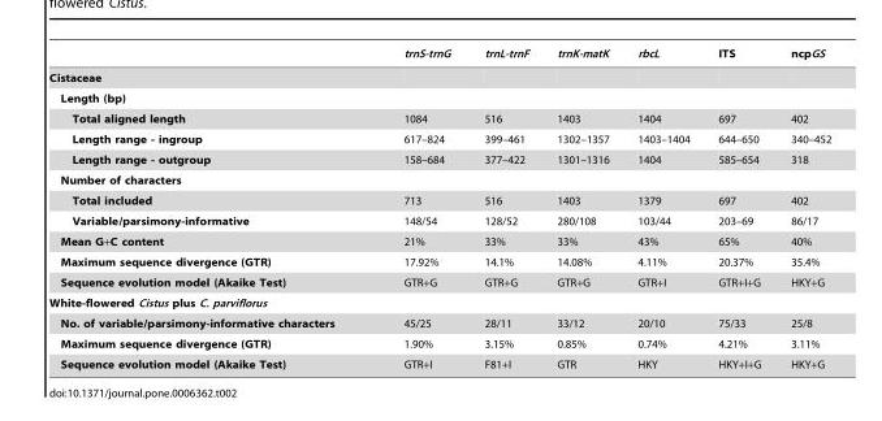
<table><thead><tr><td></td><td>trnS-trnG</td><td>trnL-trnF</td><td>trnK-matK</td><td>rbcL</td><td>ITS</td><td>ncpGS</td></tr></thead><tbody><tr><td colspan="7">Cistaceae</td></tr><tr><td colspan="7">Length (bp)</td></tr><tr><td>Total aligned length</td><td>1084</td><td>516</td><td>1403</td><td>1404</td><td>697</td><td>402</td></tr><tr><td>Length range - ingroup</td><td>617–824</td><td>399–461</td><td>1302–1357</td><td>1403–1404</td><td>644–650</td><td>340–452</td></tr><tr><td>Length range - outgroup</td><td>158–684</td><td>377–422</td><td>1301–1316</td><td>1404</td><td>585–654</td><td>318</td></tr><tr><td colspan="7">Number of characters</td></tr><tr><td>Total included</td><td>713</td><td>516</td><td>1403</td><td>1379</td><td>697</td><td>402</td></tr><tr><td>Variable/parsimony-informative</td><td>148/54</td><td>128/52</td><td>280/108</td><td>103/44</td><td>203–69</td><td>86/17</td></tr><tr><td>Mean G+C content</td><td>21%</td><td>33%</td><td>33%</td><td>43%</td><td>65%</td><td>40%</td></tr><tr><td>Maximum sequence divergence (GTR)</td><td>17.92%</td><td>14.1%</td><td>14.08%</td><td>4.11%</td><td>20.37%</td><td>35.4%</td></tr><tr><td>Sequence evolution model (Akaike Test)</td><td>GTR+G</td><td>GTR+G</td><td>GTR+G</td><td>GTR+I</td><td>GTR+I+G</td><td>HKY+G</td></tr><tr><td colspan="7">White-flowered Cistus plus C. parviflorus</td></tr><tr><td>No. of variable/parsimony-informative characters</td><td>45/25</td><td>28/11</td><td>33/12</td><td>20/10</td><td>75/33</td><td>25/8</td></tr><tr><td>Maximum sequence divergence (GTR)</td><td>1.90%</td><td>3.15%</td><td>0.85%</td><td>0.74%</td><td>4.21%</td><td>3.11%</td></tr><tr><td>Sequence evolution model (Akaike Test)</td><td>GTR+I</td><td>F81+I</td><td>GTR</td><td>HKY</td><td>HKY+I+G</td><td>HKY+G</td></tr></tbody></table>